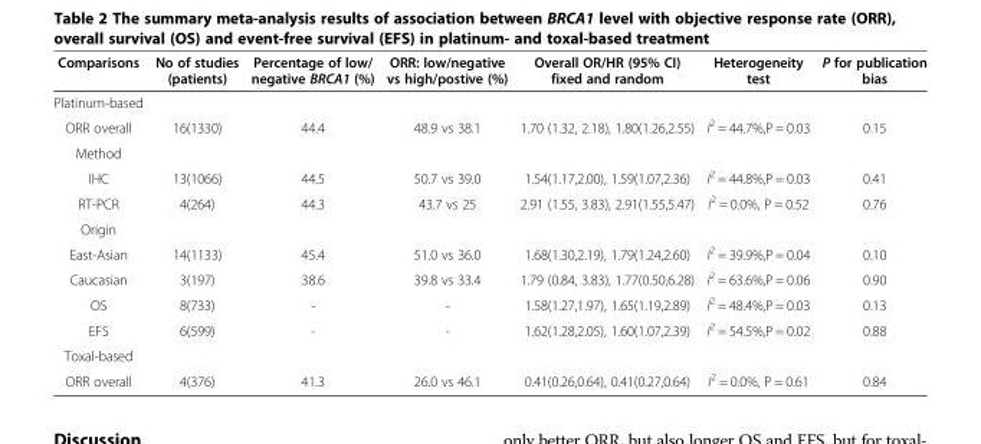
<table><thead><tr><td>Comparisons</td><td>No of studies (patients)</td><td>Percentage of low/ negative BRCA1 (%)</td><td>ORR: low/negative vs high/postive (%)</td><td>Overall OR/HR (95% CI) fixed and random</td><td>Heterogeneity test</td><td>P for publication bias</td></tr></thead><tbody><tr><td colspan="7">Platinum-based</td></tr><tr><td>ORR overall</td><td>16(1330)</td><td>44.4</td><td>48.9 vs 38.1</td><td>1.70 (1.32, 2.18), 1.80(1.26,2.55)</td><td>I<sup>2</sup> = 44.7%,P = 0.03</td><td>0.15</td></tr><tr><td colspan="7">Method</td></tr><tr><td>IHC</td><td>13(1066)</td><td>44.5</td><td>50.7 vs 39.0</td><td>1.54(1.17,2.00), 1.59(1.07,2.36)</td><td>I<sup>2</sup> = 44.8%,P = 0.03</td><td>0.41</td></tr><tr><td>RT-PCR</td><td>4(264)</td><td>44.3</td><td>43.7 vs 25</td><td>2.91 (1.55, 3.83), 2.91(1.55,5.47)</td><td>I<sup>2</sup> = 0.0%, P = 0.52</td><td>0.76</td></tr><tr><td colspan="7">Origin</td></tr><tr><td>East-Asian</td><td>14(1133)</td><td>45.4</td><td>51.0 vs 36.0</td><td>1.68(1.30,2.19), 1.79(1.24,2.60)</td><td>I<sup>2</sup> = 39.9%,P = 0.04</td><td>0.10</td></tr><tr><td>Caucasian</td><td>3(197)</td><td>38.6</td><td>39.8 vs 33.4</td><td>1.79 (0.84, 3.83), 1.77(0.50,6.28)</td><td>I<sup>2</sup> = 63.6%,P = 0.06</td><td>0.90</td></tr><tr><td>OS</td><td>8(733)</td><td>-</td><td>-</td><td>1.58(1.27,1.97), 1.65(1.19,2.89)</td><td>I<sup>2</sup> = 48.4%,P = 0.03</td><td>0.13</td></tr><tr><td>EFS</td><td>6(599)</td><td>-</td><td>-</td><td>1.62(1.28,2.05), 1.60(1.07,2.39)</td><td>I<sup>2</sup> = 54.5%,P = 0.02</td><td>0.88</td></tr><tr><td colspan="7">Toxal-based</td></tr><tr><td>ORR overall</td><td>4(376)</td><td>41.3</td><td>26.0 vs 46.1</td><td>0.41(0.26,0.64), 0.41(0.27,0.64)</td><td>I<sup>2</sup> = 0.0%, P = 0.61</td><td>0.84</td></tr></tbody></table>